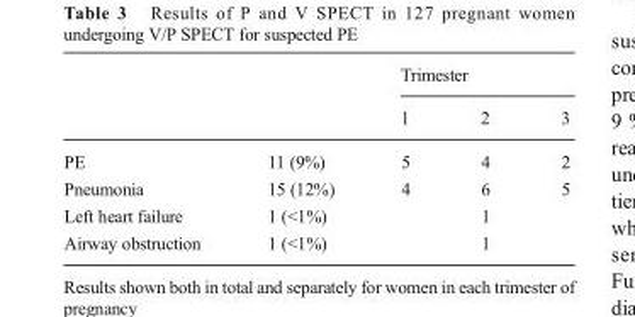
<table><thead><tr><td rowspan="2"></td><td rowspan="2"></td><td colspan="3">Trimester</td></tr><tr><td>1</td><td>2</td><td>3</td></tr></thead><tbody><tr><td>PE</td><td>11 (9%)</td><td>5</td><td>4</td><td>2</td></tr><tr><td>Pneumonia</td><td>15 (12%)</td><td>4</td><td>6</td><td>5</td></tr><tr><td>Left heart failure</td><td>1 (&lt;1%)</td><td></td><td>1</td><td></td></tr><tr><td>Airway obstruction</td><td>1 (&lt;1%)</td><td></td><td>1</td><td></td></tr></tbody></table>